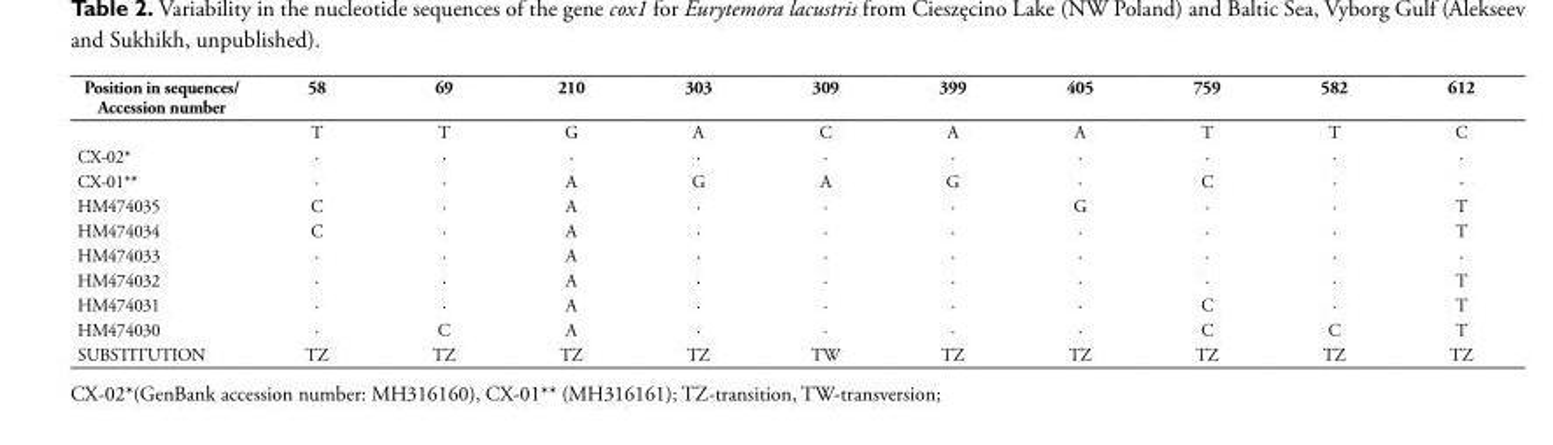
<table><tbody><tr><td rowspan="2">Position in sequences/ Accession number</td><td>58</td><td>69</td><td>210</td><td>303</td><td>309</td><td>399</td><td>405</td><td>759</td><td>582</td><td>612</td></tr><tr><td>T</td><td>T</td><td>G</td><td>A</td><td>C</td><td>A</td><td>A</td><td>T</td><td>T</td><td>C</td></tr><tr><td>CX-02*</td><td>·</td><td>·</td><td>·</td><td>·</td><td>·</td><td>·</td><td>·</td><td>·</td><td>·</td><td>·</td></tr><tr><td>CX-01**</td><td>·</td><td>·</td><td>A</td><td>G</td><td>A</td><td>G</td><td>·</td><td>C</td><td>·</td><td>-</td></tr><tr><td>HM474035</td><td>C</td><td>·</td><td>A</td><td>·</td><td>·</td><td>·</td><td>G</td><td>·</td><td>·</td><td>T</td></tr><tr><td>HM474034</td><td>C</td><td>·</td><td>A</td><td>·</td><td>·</td><td>·</td><td>·</td><td>·</td><td>·</td><td>T</td></tr><tr><td>HM474033</td><td>·</td><td>·</td><td>A</td><td>·</td><td>·</td><td>·</td><td>·</td><td>·</td><td>·</td><td>·</td></tr><tr><td>HM474032</td><td>·</td><td>·</td><td>A</td><td>·</td><td>·</td><td>·</td><td>·</td><td>·</td><td>·</td><td>T</td></tr><tr><td>HM474031</td><td>·</td><td>·</td><td>A</td><td>·</td><td>·</td><td>·</td><td>·</td><td>C</td><td>·</td><td>T</td></tr><tr><td>HM474030</td><td>·</td><td>C</td><td>A</td><td>·</td><td>·</td><td>·</td><td>·</td><td>C</td><td>C</td><td>T</td></tr><tr><td>SUBSTITUTION</td><td>TZ</td><td>TZ</td><td>TZ</td><td>TZ</td><td>TW</td><td>TZ</td><td>TZ</td><td>TZ</td><td>TZ</td><td>TZ</td></tr></tbody></table>